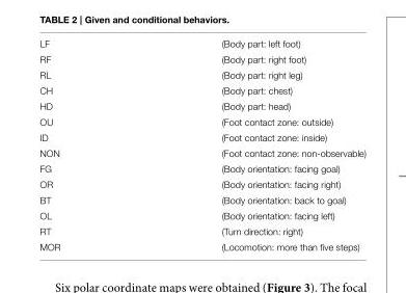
<table><tbody><tr><td>LF</td><td>(Body part: left foot)</td></tr><tr><td>RF</td><td>(Body part: right foot)</td></tr><tr><td>RL</td><td>(Body part: right leg)</td></tr><tr><td>CH</td><td>(Body part: chest)</td></tr><tr><td>HD</td><td>(Body part: head)</td></tr><tr><td>OU</td><td>(Foot contact zone: outside)</td></tr><tr><td>ID</td><td>(Foot contact zone: inside)</td></tr><tr><td>NON</td><td>(Foot contact zone: non-observable)</td></tr><tr><td>FG</td><td>(Body orientation: facing goal)</td></tr><tr><td>OR</td><td>(Body orientation: facing right)</td></tr><tr><td>BT</td><td>(Body orientation: back to goal)</td></tr><tr><td>OL</td><td>(Body orientation: facing left)</td></tr><tr><td>RT</td><td>(Turn direction: right)</td></tr><tr><td>MOR</td><td>(Locomotion: more than five steps)</td></tr></tbody></table>